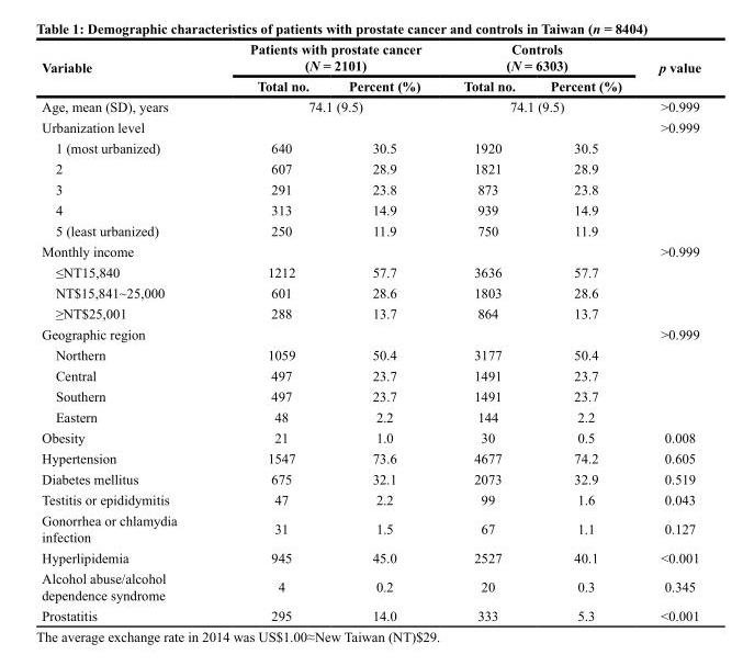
<table><thead><tr><td rowspan="2">Variable</td><td colspan="2">Patients with prostate cancer (N = 2101)</td><td colspan="2">Controls (N = 6303)</td><td rowspan="2">p value</td></tr><tr><td>Total no.</td><td>Percent (%)</td><td>Total no.</td><td>Percent (%)</td></tr></thead><tbody><tr><td>Age, mean (SD), years</td><td colspan="2">74.1 (9.5)</td><td colspan="2">74.1 (9.5)</td><td>&gt;0.999</td></tr><tr><td>Urbanization level</td><td></td><td></td><td></td><td></td><td>&gt;0.999</td></tr><tr><td>1 (most urbanized)</td><td>640</td><td>30.5</td><td>1920</td><td>30.5</td><td></td></tr><tr><td>2</td><td>607</td><td>28.9</td><td>1821</td><td>28.9</td><td></td></tr><tr><td>3</td><td>291</td><td>23.8</td><td>873</td><td>23.8</td><td></td></tr><tr><td>4</td><td>313</td><td>14.9</td><td>939</td><td>14.9</td><td></td></tr><tr><td>5 (least urbanized)</td><td>250</td><td>11.9</td><td>750</td><td>11.9</td><td></td></tr><tr><td>Monthly income</td><td></td><td></td><td></td><td></td><td>&gt;0.999</td></tr><tr><td>≤NT15,840</td><td>1212</td><td>57.7</td><td>3636</td><td>57.7</td><td></td></tr><tr><td>NT$15,841~25,000</td><td>601</td><td>28.6</td><td>1803</td><td>28.6</td><td></td></tr><tr><td>≥NT$25,001</td><td>288</td><td>13.7</td><td>864</td><td>13.7</td><td></td></tr><tr><td>Geographic region</td><td></td><td></td><td></td><td></td><td>&gt;0.999</td></tr><tr><td>Northern</td><td>1059</td><td>50.4</td><td>3177</td><td>50.4</td><td></td></tr><tr><td>Central</td><td>497</td><td>23.7</td><td>1491</td><td>23.7</td><td></td></tr><tr><td>Southern</td><td>497</td><td>23.7</td><td>1491</td><td>23.7</td><td></td></tr><tr><td>Eastern</td><td>48</td><td>2.2</td><td>144</td><td>2.2</td><td></td></tr><tr><td>Obesity</td><td>21</td><td>1.0</td><td>30</td><td>0.5</td><td>0.008</td></tr><tr><td>Hypertension</td><td>1547</td><td>73.6</td><td>4677</td><td>74.2</td><td>0.605</td></tr><tr><td>Diabetes mellitus</td><td>675</td><td>32.1</td><td>2073</td><td>32.9</td><td>0.519</td></tr><tr><td>Testitis or epididymitis</td><td>47</td><td>2.2</td><td>99</td><td>1.6</td><td>0.043</td></tr><tr><td>Gonorrhea or chlamydia infection</td><td>31</td><td>1.5</td><td>67</td><td>1.1</td><td>0.127</td></tr><tr><td>Hyperlipidemia</td><td>945</td><td>45.0</td><td>2527</td><td>40.1</td><td>&lt;0.001</td></tr><tr><td>Alcohol abuse/alcohol dependence syndrome</td><td>4</td><td>0.2</td><td>20</td><td>0.3</td><td>0.345</td></tr><tr><td>Prostatitis</td><td>295</td><td>14.0</td><td>333</td><td>5.3</td><td>&lt;0.001</td></tr></tbody></table>